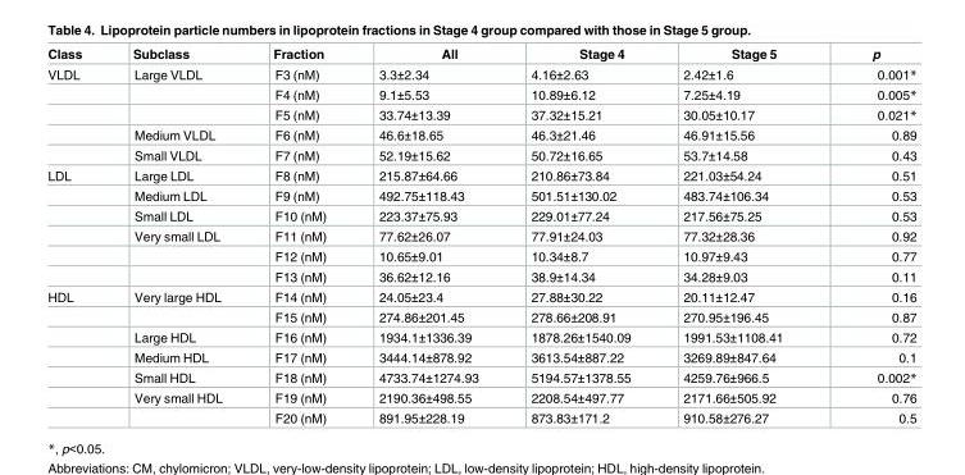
<table><thead><tr><td>Class</td><td>Subclass</td><td>Fraction</td><td>All</td><td>Stage 4</td><td>Stage 5</td><td>p</td></tr></thead><tbody><tr><td rowspan="5">VLDL</td><td>Large VLDL</td><td>F3 (nM)</td><td>3.3±2.34</td><td>4.16±2.63</td><td>2.42±1.6</td><td>0.001*</td></tr><tr><td></td><td>F4 (nM)</td><td>9.1±5.53</td><td>10.89±6.12</td><td>7.25±4.19</td><td>0.005*</td></tr><tr><td></td><td>F5 (nM)</td><td>33.74±13.39</td><td>37.32±15.21</td><td>30.05±10.17</td><td>0.021*</td></tr><tr><td>Medium VLDL</td><td>F6 (nM)</td><td>46.6±18.65</td><td>46.3±21.46</td><td>46.91±15.56</td><td>0.89</td></tr><tr><td>Small VLDL</td><td>F7 (nM)</td><td>52.19±15.62</td><td>50.72±16.65</td><td>53.7±14.58</td><td>0.43</td></tr><tr><td rowspan="6">LDL</td><td>Large LDL</td><td>F8 (nM)</td><td>215.87±64.66</td><td>210.86±73.84</td><td>221.03±54.24</td><td>0.51</td></tr><tr><td>Medium LDL</td><td>F9 (nM)</td><td>492.75±118.43</td><td>501.51±130.02</td><td>483.74±106.34</td><td>0.53</td></tr><tr><td>Small LDL</td><td>F10 (nM)</td><td>223.37±75.93</td><td>229.01±77.24</td><td>217.56±75.25</td><td>0.53</td></tr><tr><td>Very small LDL</td><td>F11 (nM)</td><td>77.62±26.07</td><td>77.91±24.03</td><td>77.32±28.36</td><td>0.92</td></tr><tr><td></td><td>F12 (nM)</td><td>10.65±9.01</td><td>10.34±8.7</td><td>10.97±9.43</td><td>0.77</td></tr><tr><td></td><td>F13 (nM)</td><td>36.62±12.16</td><td>38.9±14.34</td><td>34.28±9.03</td><td>0.11</td></tr><tr><td rowspan="7">HDL</td><td>Very large HDL</td><td>F14 (nM)</td><td>24.05±23.4</td><td>27.88±30.22</td><td>20.11±12.47</td><td>0.16</td></tr><tr><td></td><td>F15 (nM)</td><td>274.86±201.45</td><td>278.66±208.91</td><td>270.95±196.45</td><td>0.87</td></tr><tr><td>Large HDL</td><td>F16 (nM)</td><td>1934.1±1336.39</td><td>1878.26±1540.09</td><td>1991.53±1108.41</td><td>0.72</td></tr><tr><td>Medium HDL</td><td>F17 (nM)</td><td>3444.14±878.92</td><td>3613.54±887.22</td><td>3269.89±847.64</td><td>0.1</td></tr><tr><td>Small HDL</td><td>F18 (nM)</td><td>4733.74±1274.93</td><td>5194.57±1378.55</td><td>4259.76±966.5</td><td>0.002*</td></tr><tr><td>Very small HDL</td><td>F19 (nM)</td><td>2190.36±498.55</td><td>2208.54±497.77</td><td>2171.66±505.92</td><td>0.76</td></tr><tr><td></td><td>F20 (nM)</td><td>891.95±228.19</td><td>873.83±171.2</td><td>910.58±276.27</td><td>0.5</td></tr></tbody></table>